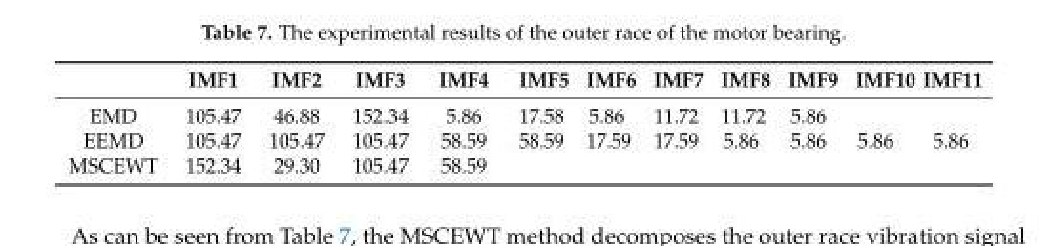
<table><thead><tr><td></td><td>IMF1</td><td>IMF2</td><td>IMF3</td><td>IMF4</td><td>IMF5</td><td>IMF6</td><td>IMF7</td><td>IMF8</td><td>IMF9</td><td>IMF10</td><td>IMF11</td></tr></thead><tbody><tr><td>EMD</td><td>105.47</td><td>46.88</td><td>152.34</td><td>5.86</td><td>17.58</td><td>5.86</td><td>11.72</td><td>11.72</td><td>5.86</td><td></td><td></td></tr><tr><td>EEMD</td><td>105.47</td><td>105.47</td><td>105.47</td><td>58.59</td><td>58.59</td><td>17.59</td><td>17.59</td><td>5.86</td><td>5.86</td><td>5.86</td><td>5.86</td></tr><tr><td>MSCEWT</td><td>152.34</td><td>29.30</td><td>105.47</td><td>58.59</td><td></td><td></td><td></td><td></td><td></td><td></td><td></td></tr></tbody></table>